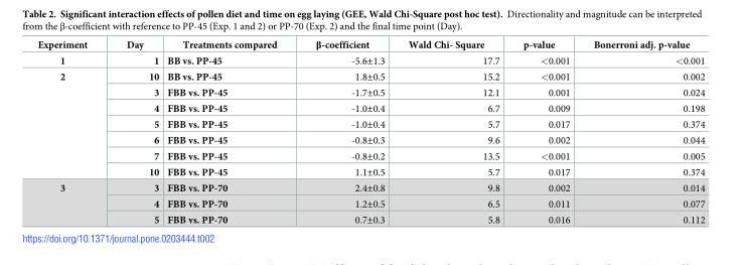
<table><thead><tr><td>Experiment</td><td>Day</td><td>Treatments compared</td><td>β-coefficient</td><td>Wald Chi- Square</td><td>p-value</td><td>Bonerroni adj. p-value</td></tr></thead><tbody><tr><td>1</td><td>1</td><td>BB vs. PP-45</td><td>-5.6±1.3</td><td>17.7</td><td>&lt;0.001</td><td>&lt;0.001</td></tr><tr><td rowspan="7">2</td><td>10</td><td>BB vs. PP-45</td><td>1.8±0.5</td><td>15.2</td><td>&lt;0.001</td><td>0.002</td></tr><tr><td>3</td><td>FBB vs. PP-45</td><td>-1.7±0.5</td><td>12.1</td><td>0.001</td><td>0.024</td></tr><tr><td>4</td><td>FBB vs. PP-45</td><td>-1.0±0.4</td><td>6.7</td><td>0.009</td><td>0.198</td></tr><tr><td>5</td><td>FBB vs. PP-45</td><td>-1.0±0.4</td><td>5.7</td><td>0.017</td><td>0.374</td></tr><tr><td>6</td><td>FBB vs. PP-45</td><td>-0.8±0.3</td><td>9.6</td><td>0.002</td><td>0.044</td></tr><tr><td>7</td><td>FBB vs. PP-45</td><td>-0.8±0.2</td><td>13.5</td><td>&lt;0.001</td><td>0.005</td></tr><tr><td>10</td><td>FBB vs. PP-45</td><td>1.1±0.5</td><td>5.7</td><td>0.017</td><td>0.374</td></tr><tr><td rowspan="3">3</td><td>3</td><td>FBB vs. PP-70</td><td>2.4±0.8</td><td>9.8</td><td>0.002</td><td>0.014</td></tr><tr><td>4</td><td>FBB vs. PP-70</td><td>1.2±0.5</td><td>6.5</td><td>0.011</td><td>0.077</td></tr><tr><td>5</td><td>FBB vs. PP-70</td><td>0.7±0.3</td><td>5.8</td><td>0.016</td><td>0.112</td></tr></tbody></table>